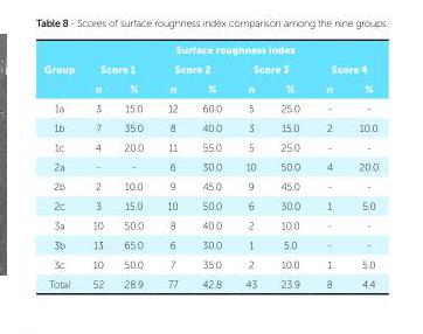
<table><thead><tr><td rowspan="3">Group</td><td colspan="8">Surface roughness index</td></tr><tr><td colspan="2">Score 1</td><td colspan="2">Score 2</td><td colspan="2">Score 3</td><td colspan="2">Score 4</td></tr><tr><td>n</td><td>%</td><td>n</td><td>%</td><td>n</td><td>%</td><td>n</td><td>%</td></tr></thead><tbody><tr><td>1a</td><td>3</td><td>15.0</td><td>12</td><td>60.0</td><td>5</td><td>25.0</td><td>-</td><td>-</td></tr><tr><td>1b</td><td>7</td><td>35.0</td><td>8</td><td>40.0</td><td>3</td><td>15.0</td><td>2</td><td>10.0</td></tr><tr><td>1c</td><td>4</td><td>20.0</td><td>11</td><td>55.0</td><td>5</td><td>25.0</td><td>-</td><td>-</td></tr><tr><td>2a</td><td>-</td><td>-</td><td>6</td><td>30.0</td><td>10</td><td>50.0</td><td>4</td><td>20.0</td></tr><tr><td>2b</td><td>2</td><td>10.0</td><td>9</td><td>45.0</td><td>9</td><td>45.0</td><td>-</td><td>-</td></tr><tr><td>2c</td><td>3</td><td>15.0</td><td>10</td><td>50.0</td><td>6</td><td>30.0</td><td>1</td><td>5.0</td></tr><tr><td>3a</td><td>10</td><td>50.0</td><td>8</td><td>40.0</td><td>2</td><td>10.0</td><td>-</td><td>-</td></tr><tr><td>3b</td><td>13</td><td>65.0</td><td>6</td><td>30.0</td><td>1</td><td>5.0</td><td>-</td><td>-</td></tr><tr><td>3c</td><td>10</td><td>50.0</td><td>7</td><td>35.0</td><td>2</td><td>10.0</td><td>1</td><td>5.0</td></tr><tr><td>Total</td><td>52</td><td>28.9</td><td>77</td><td>42.8</td><td>43</td><td>23.9</td><td>8</td><td>4.4</td></tr></tbody></table>